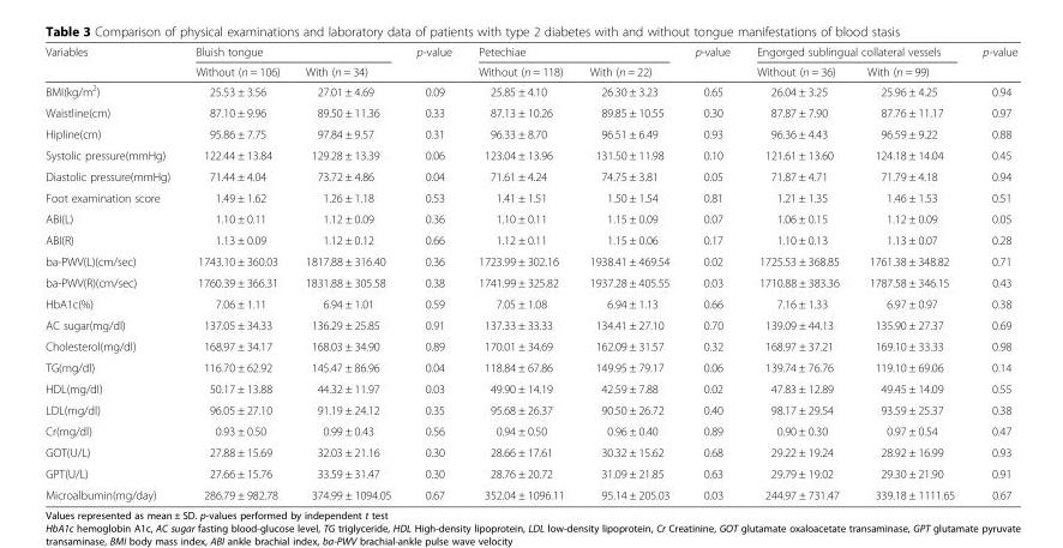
<table><thead><tr><td rowspan="2">Variables</td><td colspan="2">Bluish tongue</td><td rowspan="2">p-value</td><td colspan="2">Petechiae</td><td rowspan="2">p-value</td><td colspan="2">Engorged sublingual collateral vessels</td><td rowspan="2">p-value</td></tr><tr><td>Without (n = 106)</td><td>With (n = 34)</td><td>Without (n = 118)</td><td>With (n = 22)</td><td>Without (n = 36)</td><td>With (n = 99)</td></tr></thead><tbody><tr><td>BMI(kg/m<sup>2</sup>)</td><td>25.53 ± 3.56</td><td>27.01 ± 4.69</td><td>0.09</td><td>25.85 ± 4.10</td><td>26.30 ± 3.23</td><td>0.65</td><td>26.04 ± 3.25</td><td>25.96 ± 4.25</td><td>0.94</td></tr><tr><td>Waistline(cm)</td><td>87.10 ± 9.96</td><td>89.50 ± 11.36</td><td>0.33</td><td>87.13 ± 10.26</td><td>89.85 ± 10.55</td><td>0.30</td><td>87.87 ± 7.90</td><td>87.76 ± 11.17</td><td>0.97</td></tr><tr><td>Hipline(cm)</td><td>95.86 ± 7.75</td><td>97.84 ± 9.57</td><td>0.31</td><td>96.33 ± 8.70</td><td>96.51 ± 6.49</td><td>0.93</td><td>96.36 ± 4.43</td><td>96.59 ± 9.22</td><td>0.88</td></tr><tr><td>Systolic pressure(mmHg)</td><td>122.44 ± 13.84</td><td>129.28 ± 13.39</td><td>0.06</td><td>123.04 ± 13.96</td><td>131.50 ± 11.98</td><td>0.10</td><td>121.61 ± 13.60</td><td>124.18 ± 14.04</td><td>0.45</td></tr><tr><td>Diastolic pressure(mmHg)</td><td>71.44 ± 4.04</td><td>73.72 ± 4.86</td><td>0.04</td><td>71.61 ± 4.24</td><td>74.75 ± 3.81</td><td>0.05</td><td>71.87 ± 4.71</td><td>71.79 ± 4.18</td><td>0.94</td></tr><tr><td>Foot examination score</td><td>1.49 ± 1.62</td><td>1.26 ± 1.18</td><td>0.53</td><td>1.41 ± 1.51</td><td>1.50 ± 1.54</td><td>0.81</td><td>1.21 ± 1.35</td><td>1.46 ± 1.53</td><td>0.51</td></tr><tr><td>ABI(L)</td><td>1.10 ± 0.11</td><td>1.12 ± 0.09</td><td>0.36</td><td>1.10 ± 0.11</td><td>1.15 ± 0.09</td><td>0.07</td><td>1.06 ± 0.15</td><td>1.12 ± 0.09</td><td>0.05</td></tr><tr><td>ABI(R)</td><td>1.13 ± 0.09</td><td>1.12 ± 0.12</td><td>0.66</td><td>1.12 ± 0.11</td><td>1.15 ± 0.06</td><td>0.17</td><td>1.10 ± 0.13</td><td>1.13 ± 0.07</td><td>0.28</td></tr><tr><td>ba-PWV(L)(cm/sec)</td><td>1743.10 ± 360.03</td><td>1817.88 ± 316.40</td><td>0.36</td><td>1723.99 ± 302.16</td><td>1938.41 ± 469.54</td><td>0.02</td><td>1725.53 ± 368.85</td><td>1761.38 ± 348.82</td><td>0.71</td></tr><tr><td>ba-PWV(R)(cm/sec)</td><td>1760.39 ± 366.31</td><td>1831.88 ± 305.58</td><td>0.38</td><td>1741.99 ± 325.82</td><td>1937.28 ± 405.55</td><td>0.03</td><td>1710.88 ± 383.36</td><td>1787.58 ± 346.15</td><td>0.43</td></tr><tr><td>HbA1c(%)</td><td>7.06 ± 1.11</td><td>6.94 ± 1.01</td><td>0.59</td><td>7.05 ± 1.08</td><td>6.94 ± 1.13</td><td>0.66</td><td>7.16 ± 1.33</td><td>6.97 ± 0.97</td><td>0.38</td></tr><tr><td>AC sugar(mg/dl)</td><td>137.05 ± 34.33</td><td>136.29 ± 25.85</td><td>0.91</td><td>137.33 ± 33.33</td><td>134.41 ± 27.10</td><td>0.70</td><td>139.09 ± 44.13</td><td>135.90 ± 27.37</td><td>0.69</td></tr><tr><td>Cholesterol(mg/dl)</td><td>168.97 ± 34.17</td><td>168.03 ± 34.90</td><td>0.89</td><td>170.01 ± 34.69</td><td>162.09 ± 31.57</td><td>0.32</td><td>168.97 ± 37.21</td><td>169.10 ± 33.33</td><td>0.98</td></tr><tr><td>TG(mg/dl)</td><td>116.70 ± 62.92</td><td>145.47 ± 86.96</td><td>0.04</td><td>118.84 ± 67.86</td><td>149.95 ± 79.17</td><td>0.06</td><td>139.74 ± 76.76</td><td>119.10 ± 69.06</td><td>0.14</td></tr><tr><td>HDL(mg/dl)</td><td>50.17 ± 13.88</td><td>44.32 ± 11.97</td><td>0.03</td><td>49.90 ± 14.19</td><td>42.59 ± 7.88</td><td>0.02</td><td>47.83 ± 12.89</td><td>49.45 ± 14.09</td><td>0.55</td></tr><tr><td>LDL(mg/dl)</td><td>96.05 ± 27.10</td><td>91.19 ± 24.12</td><td>0.35</td><td>95.68 ± 26.37</td><td>90.50 ± 26.72</td><td>0.40</td><td>98.17 ± 29.54</td><td>93.59 ± 25.37</td><td>0.38</td></tr><tr><td>Cr(mg/dl)</td><td>0.93 ± 0.50</td><td>0.99 ± 0.43</td><td>0.56</td><td>0.94 ± 0.50</td><td>0.96 ± 0.40</td><td>0.89</td><td>0.90 ± 0.30</td><td>0.97 ± 0.54</td><td>0.47</td></tr><tr><td>GOT(U/L)</td><td>27.88 ± 15.69</td><td>32.03 ± 21.16</td><td>0.30</td><td>28.66 ± 17.61</td><td>30.32 ± 15.62</td><td>0.68</td><td>29.22 ± 19.24</td><td>28.92 ± 16.99</td><td>0.93</td></tr><tr><td>GPT(U/L)</td><td>27.66 ± 15.76</td><td>33.59 ± 31.47</td><td>0.30</td><td>28.76 ± 20.72</td><td>31.09 ± 21.85</td><td>0.63</td><td>29.79 ± 19.02</td><td>29.30 ± 21.90</td><td>0.91</td></tr><tr><td>Microalbumin(mg/day)</td><td>286.79 ± 982.78</td><td>374.99 ± 1094.05</td><td>0.67</td><td>352.04 ± 1096.11</td><td>95.14 ± 205.03</td><td>0.03</td><td>244.97 ± 731.47</td><td>339.18 ± 1111.65</td><td>0.67</td></tr></tbody></table>